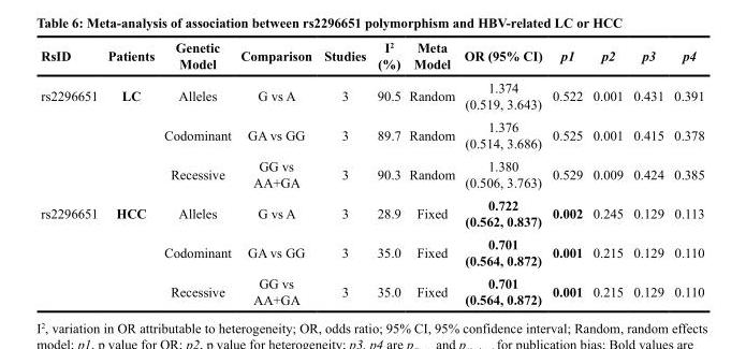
<table><thead><tr><td>RsID</td><td>Patients</td><td>Genetic Model</td><td>Comparison</td><td>Studies</td><td>I<sup>2</sup> (%)</td><td>Meta Model</td><td>OR (95% CI)</td><td>p1</td><td>p2</td><td>p3</td><td>p4</td></tr></thead><tbody><tr><td rowspan="3">rs2296651</td><td>LC</td><td>Alleles</td><td>G vs A</td><td>3</td><td>90.5</td><td>Random</td><td>1.374 (0.519, 3.643)</td><td>0.522</td><td>0.001</td><td>0.431</td><td>0.391</td></tr><tr><td></td><td>Codominant</td><td>GA vs GG</td><td>3</td><td>89.7</td><td>Random</td><td>1.376 (0.514, 3.686)</td><td>0.525</td><td>0.001</td><td>0.415</td><td>0.378</td></tr><tr><td></td><td>Recessive</td><td>GG vs AA+GA</td><td>3</td><td>90.3</td><td>Random</td><td>1.380 (0.506, 3.763)</td><td>0.529</td><td>0.009</td><td>0.424</td><td>0.385</td></tr><tr><td rowspan="3">rs2296651</td><td>HCC</td><td>Alleles</td><td>G vs A</td><td>3</td><td>28.9</td><td>Fixed</td><td>0.722 (0.562, 0.837)</td><td>0.002</td><td>0.245</td><td>0.129</td><td>0.113</td></tr><tr><td></td><td>Codominant</td><td>GA vs GG</td><td>3</td><td>35.0</td><td>Fixed</td><td>0.701 (0.564, 0.872)</td><td>0.001</td><td>0.215</td><td>0.129</td><td>0.110</td></tr><tr><td></td><td>Recessive</td><td>GG vs AA+GA</td><td>3</td><td>35.0</td><td>Fixed</td><td>0.701 (0.564, 0.872)</td><td>0.001</td><td>0.215</td><td>0.129</td><td>0.110</td></tr></tbody></table>